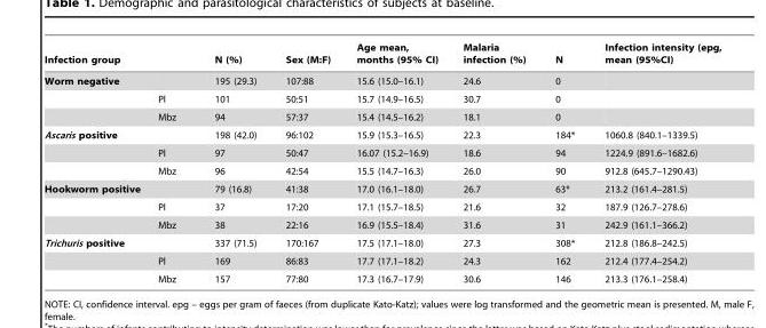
<table><thead><tr><td>Infection group</td><td></td><td>N (%)</td><td>Sex (M:F)</td><td>Age mean, months (95% CI)</td><td>Malaria infection (%)</td><td>N</td><td>Infection intensity (epg, mean (95%CI)</td></tr></thead><tbody><tr><td rowspan="3">Worm negative</td><td></td><td>195 (29.3)</td><td>107:88</td><td>15.6 (15.0–16.1)</td><td>24.6</td><td>0</td><td></td></tr><tr><td>Pl</td><td>101</td><td>50:51</td><td>15.7 (14.9–16.5)</td><td>30.7</td><td>0</td><td></td></tr><tr><td>Mbz</td><td>94</td><td>57:37</td><td>15.4 (14.5–16.2)</td><td>18.1</td><td>0</td><td></td></tr><tr><td rowspan="3">Ascaris positive</td><td></td><td>198 (42.0)</td><td>96:102</td><td>15.9 (15.3–16.5)</td><td>22.3</td><td>184*</td><td>1060.8 (840.1–1339.5)</td></tr><tr><td>Pl</td><td>97</td><td>50:47</td><td>16.07 (15.2–16.9)</td><td>18.6</td><td>94</td><td>1224.9 (891.6–1682.6)</td></tr><tr><td>Mbz</td><td>96</td><td>42:54</td><td>15.5 (14.7–16.3)</td><td>26.0</td><td>90</td><td>912.8 (645.7–1290.43)</td></tr><tr><td rowspan="3">Hookworm positive</td><td></td><td>79 (16.8)</td><td>41:38</td><td>17.0 (16.1–18.0)</td><td>26.7</td><td>63*</td><td>213.2 (161.4–281.5)</td></tr><tr><td>Pl</td><td>37</td><td>17:20</td><td>17.1 (15.7–18.5)</td><td>21.6</td><td>32</td><td>187.9 (126.7–278.6)</td></tr><tr><td>Mbz</td><td>38</td><td>22:16</td><td>16.9 (15.5–18.4)</td><td>31.6</td><td>31</td><td>242.9 (161.1–366.2)</td></tr><tr><td rowspan="3">Trichuris positive</td><td></td><td>337 (71.5)</td><td>170:167</td><td>17.5 (17.1–18.0)</td><td>27.3</td><td>308*</td><td>212.8 (186.8–242.5)</td></tr><tr><td>Pl</td><td>169</td><td>86:83</td><td>17.7 (17.1–18.2)</td><td>24.3</td><td>162</td><td>212.4 (177.4–254.2)</td></tr><tr><td>Mbz</td><td>157</td><td>77:80</td><td>17.3 (16.7–17.9)</td><td>30.6</td><td>146</td><td>213.3 (176.1–258.4)</td></tr></tbody></table>